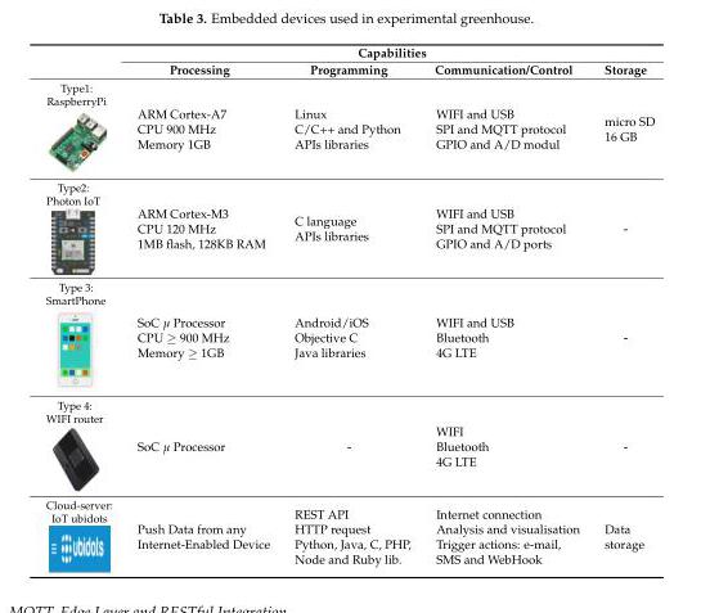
<table><thead><tr><td rowspan="2"></td><td colspan="4">Capabilities</td></tr><tr><td>Processing</td><td>Programming</td><td>Communication/Control</td><td>Storage</td></tr></thead><tbody><tr><td>Type1: RaspberryPi</td><td>ARM Cortex-A7 CPU 900 MHz Memory 1GB</td><td>Linux C/C++ and Python APIs libraries</td><td>WIFI and USB SPI and MQTT protocol GPIO and A/D modul</td><td>micro SD 16 GB</td></tr><tr><td>Type2: Photon IoT</td><td>ARM Cortex-M3 CPU 120 MHz 1MB flash, 128KB RAM</td><td>C language APIs libraries</td><td>WIFI and USB SPI and MQTT protocol GPIO and A/D ports</td><td>-</td></tr><tr><td>Type 3: SmartPhone</td><td>SoC µ Processor CPU ≥ 900 MHz Memory ≥ 1GB</td><td>Android/iOS Objective C Java libraries</td><td>WIFI and USB Bluetooth 4G LTE</td><td>-</td></tr><tr><td>Type 4: WIFI router</td><td>SoC µ Processor</td><td>-</td><td>WIFI Bluetooth 4G LTE</td><td>-</td></tr><tr><td>Cloud-server: IoT ubidots</td><td>Push Data from any Internet-Enabled Device</td><td>REST API HTTP request Python, Java, C, PHP, Node and Ruby lib.</td><td>Internet connection Analysis and visualisation Trigger actions: e-mail, SMS and WebHook</td><td>Data storage</td></tr></tbody></table>